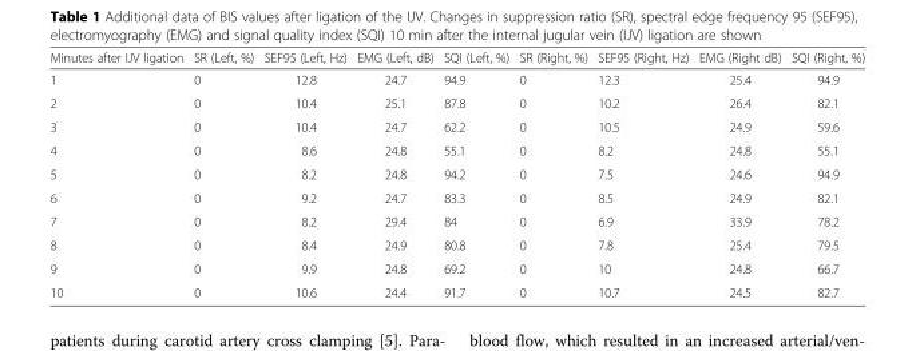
<table><thead><tr><td>Minutes after IJV ligation</td><td>SR (Left, %)</td><td>SEF95 (Left, Hz)</td><td>EMG (Left, dB)</td><td>SQI (Left, %)</td><td>SR (Right, %)</td><td>SEF95 (Right, Hz)</td><td>EMG (Right dB)</td><td>SQI (Right, %)</td></tr></thead><tbody><tr><td>1</td><td>0</td><td>12.8</td><td>24.7</td><td>94.9</td><td>0</td><td>12.3</td><td>25.4</td><td>94.9</td></tr><tr><td>2</td><td>0</td><td>10.4</td><td>25.1</td><td>87.8</td><td>0</td><td>10.2</td><td>26.4</td><td>82.1</td></tr><tr><td>3</td><td>0</td><td>10.4</td><td>24.7</td><td>62.2</td><td>0</td><td>10.5</td><td>24.9</td><td>59.6</td></tr><tr><td>4</td><td>0</td><td>8.6</td><td>24.8</td><td>55.1</td><td>0</td><td>8.2</td><td>24.8</td><td>55.1</td></tr><tr><td>5</td><td>0</td><td>8.2</td><td>24.8</td><td>94.2</td><td>0</td><td>7.5</td><td>24.6</td><td>94.9</td></tr><tr><td>6</td><td>0</td><td>9.2</td><td>24.7</td><td>83.3</td><td>0</td><td>8.5</td><td>24.9</td><td>82.1</td></tr><tr><td>7</td><td>0</td><td>8.2</td><td>29.4</td><td>84</td><td>0</td><td>6.9</td><td>33.9</td><td>78.2</td></tr><tr><td>8</td><td>0</td><td>8.4</td><td>24.9</td><td>80.8</td><td>0</td><td>7.8</td><td>25.4</td><td>79.5</td></tr><tr><td>9</td><td>0</td><td>9.9</td><td>24.8</td><td>69.2</td><td>0</td><td>10</td><td>24.8</td><td>66.7</td></tr><tr><td>10</td><td>0</td><td>10.6</td><td>24.4</td><td>91.7</td><td>0</td><td>10.7</td><td>24.5</td><td>82.7</td></tr></tbody></table>